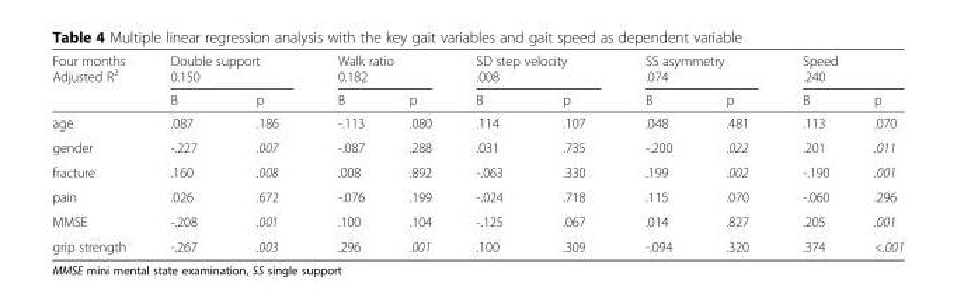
<table><thead><tr><td rowspan="2">Four months Adjusted R<sup>2</sup></td><td colspan="2">Double support 0.150</td><td colspan="2">Walk ratio 0.182</td><td colspan="2">SD step velocity .008</td><td colspan="2">SS asymmetry .074</td><td colspan="2">Speed .240</td></tr><tr><td>B</td><td>p</td><td>B</td><td>p</td><td>B</td><td>p</td><td>B</td><td>p</td><td>B</td><td>p</td></tr></thead><tbody><tr><td>age</td><td>.087</td><td>.186</td><td>-.113</td><td>.080</td><td>.114</td><td>.107</td><td>.048</td><td>.481</td><td>.113</td><td>.070</td></tr><tr><td>gender</td><td>-.227</td><td>.007</td><td>-.087</td><td>.288</td><td>.031</td><td>.735</td><td>-.200</td><td>.022</td><td>.201</td><td>.011</td></tr><tr><td>fracture</td><td>.160</td><td>.008</td><td>.008</td><td>.892</td><td>-.063</td><td>.330</td><td>.199</td><td>.002</td><td>-.190</td><td>.001</td></tr><tr><td>pain</td><td>.026</td><td>.672</td><td>-.076</td><td>.199</td><td>-.024</td><td>.718</td><td>.115</td><td>.070</td><td>-.060</td><td>.296</td></tr><tr><td>MMSE</td><td>-.208</td><td>.001</td><td>.100</td><td>.104</td><td>-.125</td><td>.067</td><td>.014</td><td>.827</td><td>.205</td><td>.001</td></tr><tr><td>grip strength</td><td>-.267</td><td>.003</td><td>.296</td><td>.001</td><td>.100</td><td>.309</td><td>-.094</td><td>.320</td><td>.374</td><td>&lt;.001</td></tr></tbody></table>